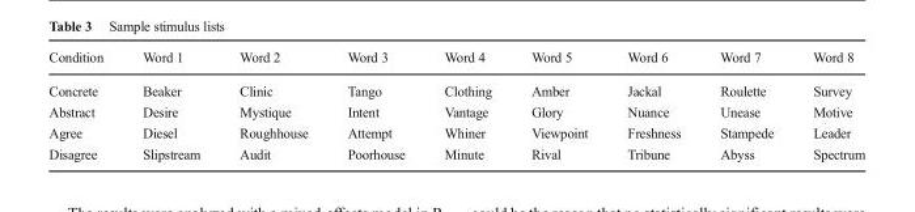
<table><thead><tr><td>Condition</td><td>Word 1</td><td>Word 2</td><td>Word 3</td><td>Word 4</td><td>Word 5</td><td>Word 6</td><td>Word 7</td><td>Word 8</td></tr></thead><tbody><tr><td>Concrete</td><td>Beaker</td><td>Clinic</td><td>Tango</td><td>Clothing</td><td>Amber</td><td>Jackal</td><td>Roulette</td><td>Survey</td></tr><tr><td>Abstract</td><td>Desire</td><td>Mystique</td><td>Intent</td><td>Vantage</td><td>Glory</td><td>Nuance</td><td>Unease</td><td>Motive</td></tr><tr><td>Agree</td><td>Diesel</td><td>Roughhouse</td><td>Attempt</td><td>Whiner</td><td>Viewpoint</td><td>Freshness</td><td>Stampede</td><td>Leader</td></tr><tr><td>Disagree</td><td>Slipstream</td><td>Audit</td><td>Poorhouse</td><td>Minute</td><td>Rival</td><td>Tribune</td><td>Abyss</td><td>Spectrum</td></tr></tbody></table>